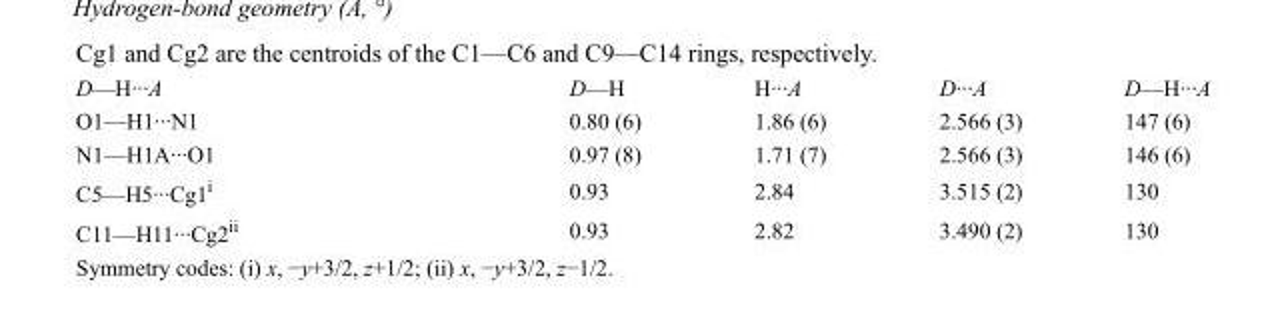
<table><tbody><tr><td>D—H···A</td><td>D—H</td><td>H···A</td><td>D···A</td><td>D—H···A</td></tr><tr><td>O1—H1···N1</td><td>0.80 (6)</td><td>1.86 (6)</td><td>2.566 (3)</td><td>147 (6)</td></tr><tr><td>N1—H1A···O1</td><td>0.97 (8)</td><td>1.71 (7)</td><td>2.566 (3)</td><td>146 (6)</td></tr><tr><td>C5—H5···Cg1<sup>i</sup></td><td>0.93</td><td>2.84</td><td>3.515 (2)</td><td>130</td></tr><tr><td>C11—H11···Cg2<sup>ii</sup></td><td>0.93</td><td>2.82</td><td>3.490 (2)</td><td>130</td></tr></tbody></table>